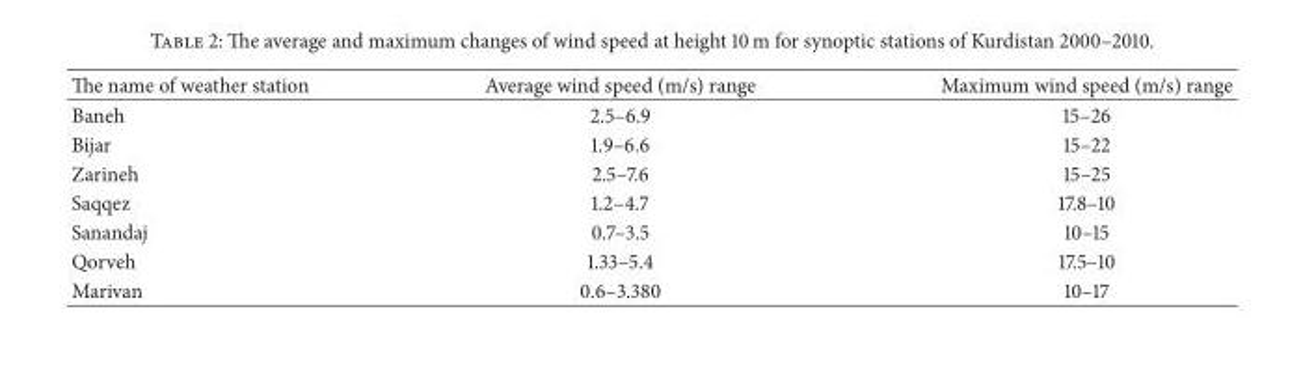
<table><thead><tr><td>The name of weather station</td><td>Average wind speed (m/s) range</td><td>Maximum wind speed (m/s) range</td></tr></thead><tbody><tr><td>Baneh</td><td>2.5–6.9</td><td>15–26</td></tr><tr><td>Bijar</td><td>1.9–6.6</td><td>15–22</td></tr><tr><td>Zarineh</td><td>2.5–7.6</td><td>15–25</td></tr><tr><td>Saqqez</td><td>1.2–4.7</td><td>17.8–10</td></tr><tr><td>Sanandaj</td><td>0.7–3.5</td><td>10–15</td></tr><tr><td>Qorveh</td><td>1.33–5.4</td><td>17.5–10</td></tr><tr><td>Marivan</td><td>0.6–3.380</td><td>10–17</td></tr></tbody></table>